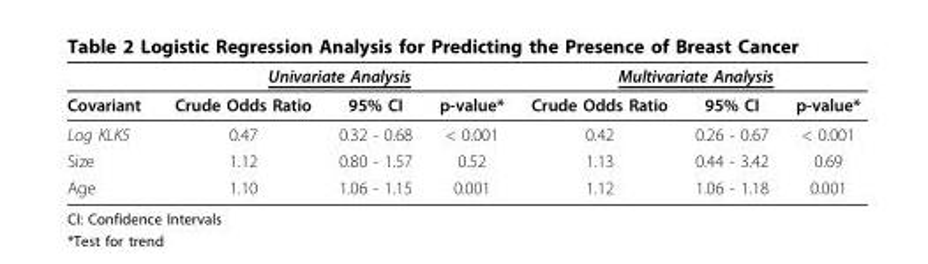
<table><thead><tr><td rowspan="2">Covariant</td><td colspan="3">Univariate Analysis</td><td colspan="3">Multivariate Analysis</td></tr><tr><td>Crude Odds Ratio</td><td>95% CI</td><td>p-value*</td><td>Crude Odds Ratio</td><td>95% CI</td><td>p-value*</td></tr></thead><tbody><tr><td>Log KLK5</td><td>0.47</td><td>0.32 - 0.68</td><td>&lt; 0.001</td><td>0.42</td><td>0.26 - 0.67</td><td>&lt; 0.001</td></tr><tr><td>Size</td><td>1.12</td><td>0.80 - 1.57</td><td>0.52</td><td>1.13</td><td>0.44 - 3.42</td><td>0.69</td></tr><tr><td>Age</td><td>1.10</td><td>1.06 - 1.15</td><td>0.001</td><td>1.12</td><td>1.06 - 1.18</td><td>0.001</td></tr></tbody></table>